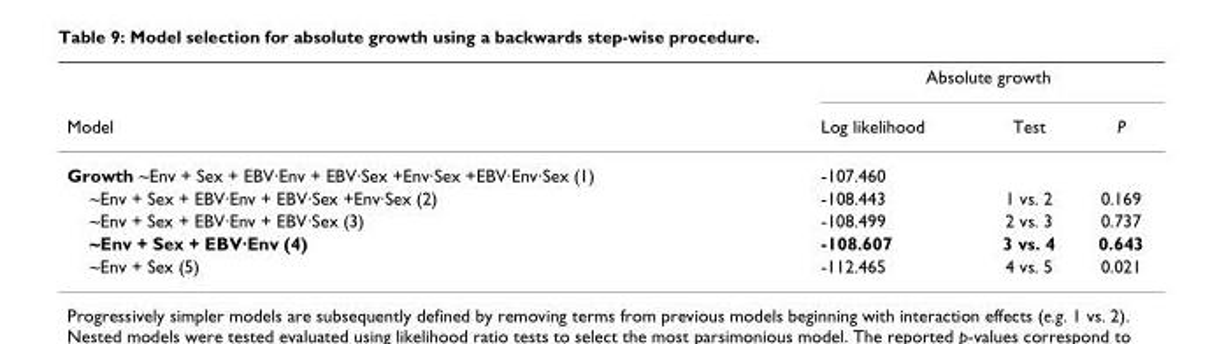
<table><thead><tr><td rowspan="2">Model</td><td colspan="3">Absolute growth</td></tr><tr><td>Log likelihood</td><td>Test</td><td>P</td></tr></thead><tbody><tr><td>Growth ~Env + Sex + EBV·Env + EBV·Sex +Env·Sex +EBV·Env·Sex (1)</td><td>-107.460</td><td></td><td></td></tr><tr><td>~Env + Sex + EBV·Env + EBV·Sex +Env·Sex (2)</td><td>-108.443</td><td>1 vs. 2</td><td>0.169</td></tr><tr><td>~Env + Sex + EBV·Env + EBV·Sex (3)</td><td>-108.499</td><td>2 vs. 3</td><td>0.737</td></tr><tr><td>~Env + Sex + EBV·Env (4)</td><td>-108.607</td><td>3 vs. 4</td><td>0.643</td></tr><tr><td>~Env + Sex (5)</td><td>-112.465</td><td>4 vs. 5</td><td>0.021</td></tr></tbody></table>